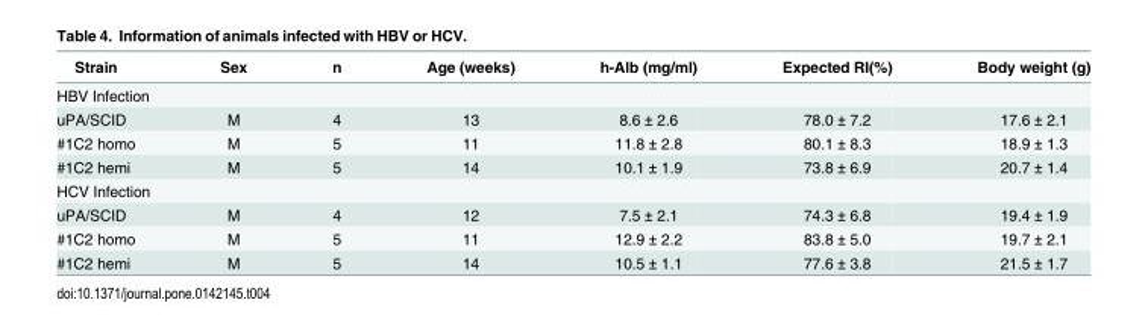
<table><thead><tr><td>Strain</td><td>Sex</td><td>n</td><td>Age (weeks)</td><td>h-Alb (mg/ml)</td><td>Expected RI(%)</td><td>Body weight (g)</td></tr></thead><tbody><tr><td colspan="7">HBV Infection</td></tr><tr><td>uPA/SCID</td><td>M</td><td>4</td><td>13</td><td>8.6 ± 2.6</td><td>78.0 ± 7.2</td><td>17.6 ± 2.1</td></tr><tr><td>#1C2 homo</td><td>M</td><td>5</td><td>11</td><td>11.8 ± 2.8</td><td>80.1 ± 8.3</td><td>18.9 ± 1.3</td></tr><tr><td>#1C2 hemi</td><td>M</td><td>5</td><td>14</td><td>10.1 ± 1.9</td><td>73.8 ± 6.9</td><td>20.7 ± 1.4</td></tr><tr><td colspan="7">HCV Infection</td></tr><tr><td>uPA/SCID</td><td>M</td><td>4</td><td>12</td><td>7.5 ± 2.1</td><td>74.3 ± 6.8</td><td>19.4 ± 1.9</td></tr><tr><td>#1C2 homo</td><td>M</td><td>5</td><td>11</td><td>12.9 ± 2.2</td><td>83.8 ± 5.0</td><td>19.7 ± 2.1</td></tr><tr><td>#1C2 hemi</td><td>M</td><td>5</td><td>14</td><td>10.5 ± 1.1</td><td>77.6 ± 3.8</td><td>21.5 ± 1.7</td></tr></tbody></table>